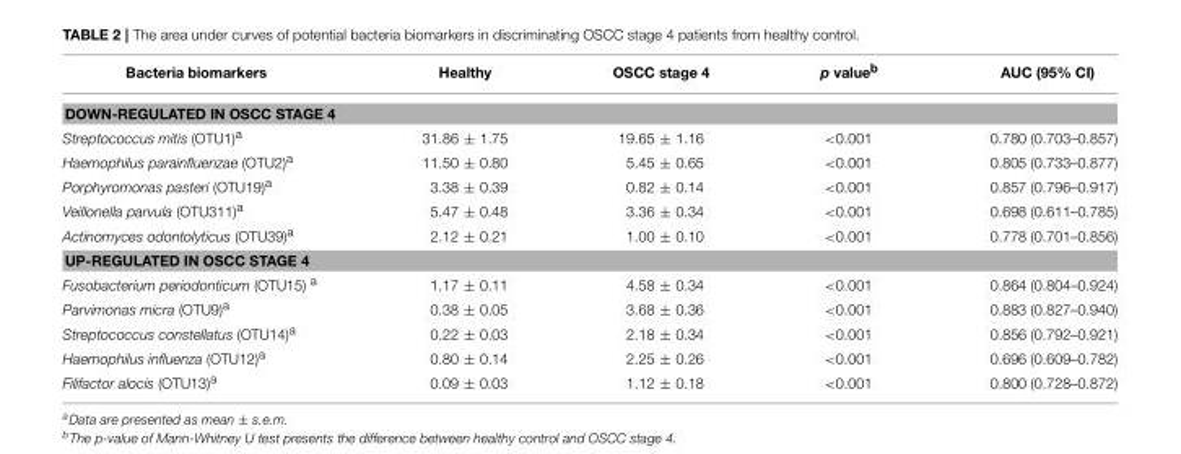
<table><thead><tr><td>Bacteria biomarkers</td><td>Healthy</td><td>OSCC stage 4</td><td>p value<sup>b</sup></td><td>AUC (95% CI)</td></tr></thead><tbody><tr><td colspan="5">DOWN-REGULATED IN OSCC STAGE 4</td></tr><tr><td>Streptococcus mitis (OTU1)<sup>a</sup></td><td>31.86 ± 1.75</td><td>19.65 ± 1.16</td><td>&lt;0.001</td><td>0.780 (0.703–0.857)</td></tr><tr><td>Haemophilus parainfluenzae (OTU2)<sup>a</sup></td><td>11.50 ± 0.80</td><td>5.45 ± 0.65</td><td>&lt;0.001</td><td>0.805 (0.733–0.877)</td></tr><tr><td>Porphyromonas pasteri (OTU19)<sup>a</sup></td><td>3.38 ± 0.39</td><td>0.82 ± 0.14</td><td>&lt;0.001</td><td>0.857 (0.796–0.917)</td></tr><tr><td>Veillonella parvula (OTU311)<sup>a</sup></td><td>5.47 ± 0.48</td><td>3.36 ± 0.34</td><td>&lt;0.001</td><td>0.698 (0.611–0.785)</td></tr><tr><td>Actinomyces odontolyticus (OTU39)<sup>a</sup></td><td>2.12 ± 0.21</td><td>1.00 ± 0.10</td><td>&lt;0.001</td><td>0.778 (0.701–0.856)</td></tr><tr><td colspan="5">UP-REGULATED IN OSCC STAGE 4</td></tr><tr><td>Fusobacterium periodonticum (OTU15) <sup>a</sup></td><td>1.17 ± 0.11</td><td>4.58 ± 0.34</td><td>&lt;0.001</td><td>0.864 (0.804–0.924)</td></tr><tr><td>Parvimonas micra (OTU9)<sup>a</sup></td><td>0.38 ± 0.05</td><td>3.68 ± 0.36</td><td>&lt;0.001</td><td>0.883 (0.827–0.940)</td></tr><tr><td>Streptococcus constellatus (OTU14)<sup>a</sup></td><td>0.22 ± 0.03</td><td>2.18 ± 0.34</td><td>&lt;0.001</td><td>0.856 (0.792–0.921)</td></tr><tr><td>Haemophilus influenza (OTU12)<sup>a</sup></td><td>0.80 ± 0.14</td><td>2.25 ± 0.26</td><td>&lt;0.001</td><td>0.696 (0.609–0.782)</td></tr><tr><td>Filifactor alocis (OTU13)<sup>a</sup></td><td>0.09 ± 0.03</td><td>1.12 ± 0.18</td><td>&lt;0.001</td><td>0.800 (0.728–0.872)</td></tr></tbody></table>